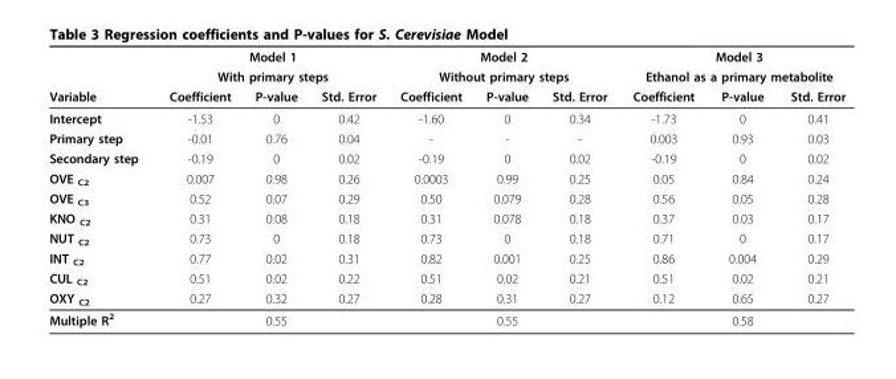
<table><thead><tr><td rowspan="3">Variable</td><td rowspan="2" colspan="3">Model 1 With primary steps</td><td rowspan="2" colspan="3">Model 2 Without primary steps</td><td rowspan="2" colspan="3">Model 3 Ethanol as a primary metabolite</td></tr><tr></tr><tr><td>Coefficient</td><td>P-value</td><td>Std. Error</td><td>Coefficient</td><td>P-value</td><td>Std. Error</td><td>Coefficient</td><td>P-value</td><td>Std. Error</td></tr></thead><tbody><tr><td>Intercept</td><td>-1.53</td><td>0</td><td>0.42</td><td>-1.60</td><td>0</td><td>0.34</td><td>-1.73</td><td>0</td><td>0.41</td></tr><tr><td>Primary step</td><td>-0.01</td><td>0.76</td><td>0.04</td><td>-</td><td>-</td><td>-</td><td>0.003</td><td>0.93</td><td>0.03</td></tr><tr><td>Secondary step</td><td>-0.19</td><td>0</td><td>0.02</td><td>-0.19</td><td>0</td><td>0.02</td><td>-0.19</td><td>0</td><td>0.02</td></tr><tr><td>OVE <sub>C2</sub></td><td>0.007</td><td>0.98</td><td>0.26</td><td>0.0003</td><td>0.99</td><td>0.25</td><td>0.05</td><td>0.84</td><td>0.24</td></tr><tr><td>OVE <sub>C3</sub></td><td>0.52</td><td>0.07</td><td>0.29</td><td>0.50</td><td>0.079</td><td>0.28</td><td>0.56</td><td>0.05</td><td>0.28</td></tr><tr><td>KNO <sub>C2</sub></td><td>0.31</td><td>0.08</td><td>0.18</td><td>0.31</td><td>0.078</td><td>0.18</td><td>0.37</td><td>0.03</td><td>0.17</td></tr><tr><td>NUT <sub>C2</sub></td><td>0.73</td><td>0</td><td>0.18</td><td>0.73</td><td>0</td><td>0.18</td><td>0.71</td><td>0</td><td>0.17</td></tr><tr><td>INT <sub>C2</sub></td><td>0.77</td><td>0.02</td><td>0.31</td><td>0.82</td><td>0.001</td><td>0.25</td><td>0.86</td><td>0.004</td><td>0.29</td></tr><tr><td>CUL <sub>C2</sub></td><td>0.51</td><td>0.02</td><td>0.22</td><td>0.51</td><td>0.02</td><td>0.21</td><td>0.51</td><td>0.02</td><td>0.21</td></tr><tr><td>OXY <sub>C2</sub></td><td>0.27</td><td>0.32</td><td>0.27</td><td>0.28</td><td>0.31</td><td>0.27</td><td>0.12</td><td>0.65</td><td>0.27</td></tr><tr><td>Multiple R<sup>2</sup></td><td></td><td>0.55</td><td></td><td></td><td>0.55</td><td></td><td></td><td>0.58</td><td></td></tr></tbody></table>